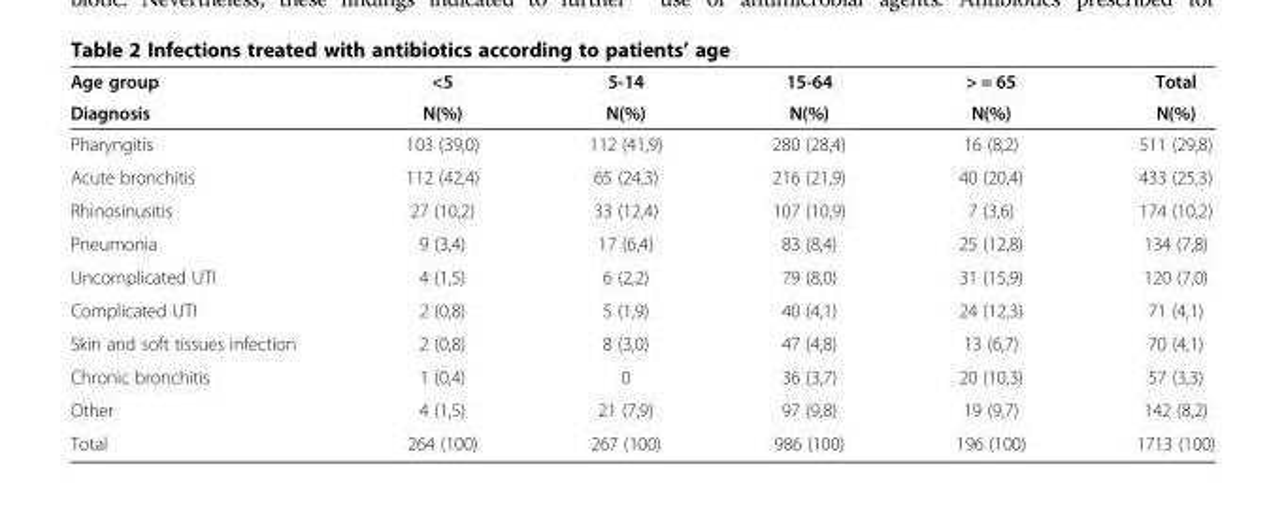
<table><thead><tr><td rowspan="2">Age group Diagnosis</td><td rowspan="2">&lt;5 N(%)</td><td rowspan="2">5-14 N(%)</td><td rowspan="2">15-64 N(%)</td><td rowspan="2">&gt; = 65 N(%)</td><td rowspan="2">Total N(%)</td></tr><tr></tr></thead><tbody><tr><td>Pharyngitis</td><td>103 (39,0)</td><td>112 (41,9)</td><td>280 (28,4)</td><td>16 (8,2)</td><td>511 (29,8)</td></tr><tr><td>Acute bronchitis</td><td>112 (42,4)</td><td>65 (24,3)</td><td>216 (21,9)</td><td>40 (20,4)</td><td>433 (25,3)</td></tr><tr><td>Rhinosinusitis</td><td>27 (10,2)</td><td>33 (12,4)</td><td>107 (10,9)</td><td>7 (3,6)</td><td>174 (10,2)</td></tr><tr><td>Pneumonia</td><td>9 (3,4)</td><td>17 (6,4)</td><td>83 (8,4)</td><td>25 (12,8)</td><td>134 (7,8)</td></tr><tr><td>Uncomplicated UTI</td><td>4 (1,5)</td><td>6 (2,2)</td><td>79 (8,0)</td><td>31 (15,9)</td><td>120 (7,0)</td></tr><tr><td>Complicated UTI</td><td>2 (0,8)</td><td>5 (1,9)</td><td>40 (4,1)</td><td>24 (12,3)</td><td>71 (4,1)</td></tr><tr><td>Skin and soft tissues infection</td><td>2 (0,8)</td><td>8 (3,0)</td><td>47 (4,8)</td><td>13 (6,7)</td><td>70 (4,1)</td></tr><tr><td>Chronic bronchitis</td><td>1 (0,4)</td><td>0</td><td>36 (3,7)</td><td>20 (10,3)</td><td>57 (3,3)</td></tr><tr><td>Other</td><td>4 (1,5)</td><td>21 (7,9)</td><td>97 (9,8)</td><td>19 (9,7)</td><td>142 (8,2)</td></tr><tr><td>Total</td><td>264 (100)</td><td>267 (100)</td><td>986 (100)</td><td>196 (100)</td><td>1713 (100)</td></tr></tbody></table>